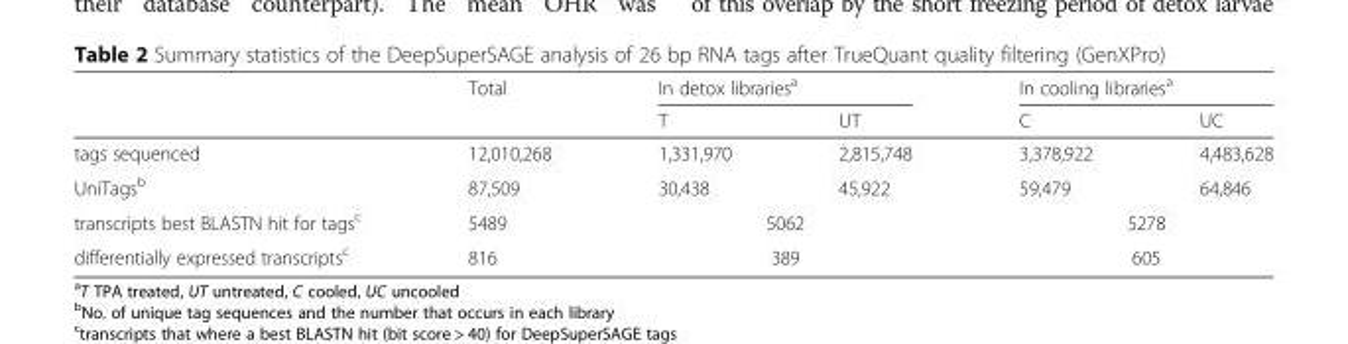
<table><thead><tr><td rowspan="2"></td><td rowspan="2">Total</td><td colspan="2">In detox libraries<sup>a</sup></td><td colspan="2">In cooling libraries<sup>a</sup></td></tr><tr><td>T</td><td>UT</td><td>C</td><td>UC</td></tr></thead><tbody><tr><td>tags sequenced</td><td>12,010,268</td><td>1,331,970</td><td>2,815,748</td><td>3,378,922</td><td>4,483,628</td></tr><tr><td>UniTags<sup>b</sup></td><td>87,509</td><td>30,438</td><td>45,922</td><td>59,479</td><td>64,846</td></tr><tr><td>transcripts best BLASTN hit for tags<sup>c</sup></td><td>5489</td><td colspan="2">5062</td><td colspan="2">5278</td></tr><tr><td>differentially expressed transcripts<sup>c</sup></td><td>816</td><td colspan="2">389</td><td colspan="2">605</td></tr></tbody></table>